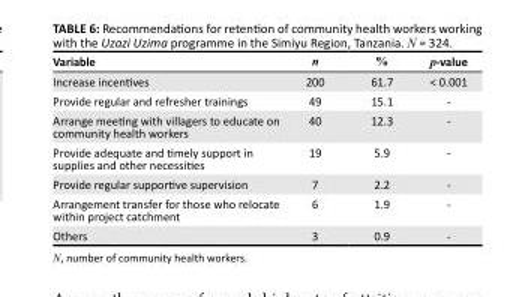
<table><thead><tr><td>Variable</td><td>n</td><td>%</td><td>p-value</td></tr></thead><tbody><tr><td>Increase incentives</td><td>200</td><td>61.7</td><td>&lt; 0.001</td></tr><tr><td>Provide regular and refresher trainings</td><td>49</td><td>15.1</td><td>-</td></tr><tr><td>Arrange meeting with villagers to educate on community health workers</td><td>40</td><td>12.3</td><td>-</td></tr><tr><td>Provide adequate and timely support in supplies and other necessities</td><td>19</td><td>5.9</td><td>-</td></tr><tr><td>Provide regular supportive supervision</td><td>7</td><td>2.2</td><td>-</td></tr><tr><td>Arrangement transfer for those who relocate within project catchment</td><td>6</td><td>1.9</td><td>-</td></tr><tr><td>Others</td><td>3</td><td>0.9</td><td>-</td></tr></tbody></table>